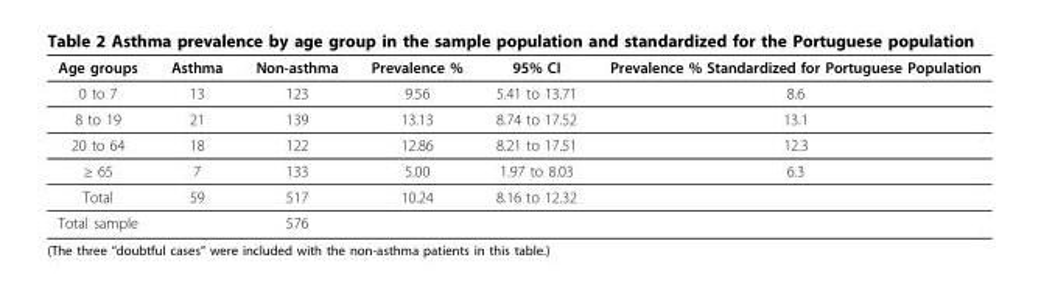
<table><thead><tr><td>Age groups</td><td>Asthma</td><td>Non-asthma</td><td>Prevalence %</td><td>95% CI</td><td>Prevalence % Standardized for Portuguese Population</td></tr></thead><tbody><tr><td>0 to 7</td><td>13</td><td>123</td><td>9.56</td><td>5.41 to 13.71</td><td>8.6</td></tr><tr><td>8 to 19</td><td>21</td><td>139</td><td>13.13</td><td>8.74 to 17.52</td><td>13.1</td></tr><tr><td>20 to 64</td><td>18</td><td>122</td><td>12.86</td><td>8.21 to 17.51</td><td>12.3</td></tr><tr><td>≥ 65</td><td>7</td><td>133</td><td>5.00</td><td>1.97 to 8.03</td><td>6.3</td></tr><tr><td>Total</td><td>59</td><td>517</td><td>10.24</td><td>8.16 to 12.32</td><td></td></tr><tr><td>Total sample</td><td></td><td>576</td><td></td><td></td><td></td></tr></tbody></table>